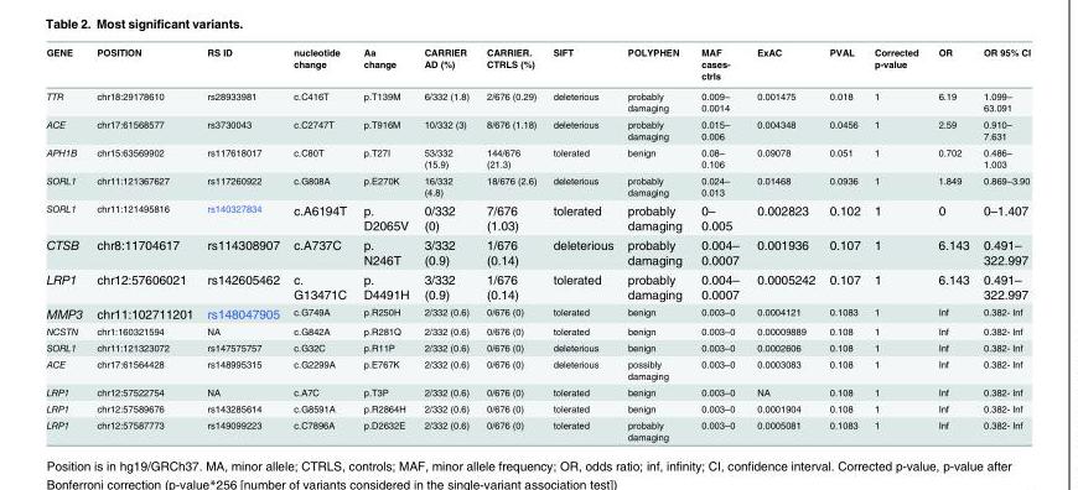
<table><thead><tr><td>GENE</td><td>POSITION</td><td>RS ID</td><td>nucleotide change</td><td>Aa change</td><td>CARRIER AD (%)</td><td>CARRIER. CTRLS (%)</td><td>SIFT</td><td>POLYPHEN</td><td>MAF cases- ctrls</td><td>ExAC</td><td>PVAL</td><td>Corrected p-value</td><td>OR</td><td>OR 95% CI</td></tr></thead><tbody><tr><td>TTR</td><td>chr18:29178610</td><td>rs28933981</td><td>c.C416T</td><td>p.T139M</td><td>6/332 (1.8)</td><td>2/676 (0.29)</td><td>deleterious</td><td>probably damaging</td><td>0.009– 0.0014</td><td>0.001475</td><td>0.018</td><td>1</td><td>6.19</td><td>1.099– 63.091</td></tr><tr><td>ACE</td><td>chr17:61568577</td><td>rs3730043</td><td>c.C2747T</td><td>p.T916M</td><td>10/332 (3)</td><td>8/676 (1.18)</td><td>deleterious</td><td>probably damaging</td><td>0.015– 0.006</td><td>0.004348</td><td>0.0456</td><td>1</td><td>2.59</td><td>0.910– 7.631</td></tr><tr><td>APH1B</td><td>chr15:63569902</td><td>rs117618017</td><td>c.C80T</td><td>p.T27I</td><td>53/332 (15.9)</td><td>144/676 (21.3)</td><td>tolerated</td><td>benign</td><td>0.08– 0.106</td><td>0.09078</td><td>0.051</td><td>1</td><td>0.702</td><td>0.486– 1.003</td></tr><tr><td>SORL1</td><td>chr11:121367627</td><td>rs117260922</td><td>c.G808A</td><td>p.E270K</td><td>16/332 (4.8)</td><td>18/676 (2.6)</td><td>deleterious</td><td>probably damaging</td><td>0.024– 0.013</td><td>0.01468</td><td>0.0936</td><td>1</td><td>1.849</td><td>0.869–3.90</td></tr><tr><td>SORL1</td><td>chr11:121495816</td><td>rs140327834</td><td>c.A6194T</td><td>p. D2065V</td><td>0/332 (0)</td><td>7/676 (1.03)</td><td>tolerated</td><td>probably damaging</td><td>0– 0.005</td><td>0.002823</td><td>0.102</td><td>1</td><td>0</td><td>0–1.407</td></tr><tr><td>CTSB</td><td>chr8:11704617</td><td>rs114308907</td><td>c.A737C</td><td>p. N246T</td><td>3/332 (0.9)</td><td>1/676 (0.14)</td><td>deleterious</td><td>probably damaging</td><td>0.004– 0.0007</td><td>0.001936</td><td>0.107</td><td>1</td><td>6.143</td><td>0.491– 322.997</td></tr><tr><td>LRP1</td><td>chr12:57606021</td><td>rs142605462</td><td>c. G13471C</td><td>p. D4491H</td><td>3/332 (0.9)</td><td>1/676 (0.14)</td><td>tolerated</td><td>probably damaging</td><td>0.004– 0.0007</td><td>0.0005242</td><td>0.107</td><td>1</td><td>6.143</td><td>0.491– 322.997</td></tr><tr><td>MMP3</td><td>chr11:102711201</td><td>rs148047905</td><td>c.G749A</td><td>p.R250H</td><td>2/332 (0.6)</td><td>0/676 (0)</td><td>tolerated</td><td>benign</td><td>0.003–0</td><td>0.0004121</td><td>0.1083</td><td>1</td><td>Inf</td><td>0.382- Inf</td></tr><tr><td>NCSTN</td><td>chr1:160321594</td><td>NA</td><td>c.G842A</td><td>p.R281Q</td><td>2/332 (0.6)</td><td>0/676 (0)</td><td>tolerated</td><td>benign</td><td>0.003–0</td><td>0.00009889</td><td>0.108</td><td>1</td><td>Inf</td><td>0.382- Inf</td></tr><tr><td>SORL1</td><td>chr11:121323072</td><td>rs147575757</td><td>c.G32C</td><td>p.R11P</td><td>2/332 (0.6)</td><td>0/676 (0)</td><td>deleterious</td><td>benign</td><td>0.003–0</td><td>0.0002606</td><td>0.108</td><td>1</td><td>Inf</td><td>0.382- Inf</td></tr><tr><td>ACE</td><td>chr17:61564428</td><td>rs148995315</td><td>c.G2299A</td><td>p.E767K</td><td>2/332 (0.6)</td><td>0/676 (0)</td><td>deleterious</td><td>possibly damaging</td><td>0.003–0</td><td>0.0003083</td><td>0.108</td><td>1</td><td>Inf</td><td>0.382- Inf</td></tr><tr><td>LRP1</td><td>chr12:57522754</td><td>NA</td><td>c.A7C</td><td>p.T3P</td><td>2/332 (0.6)</td><td>0/676 (0)</td><td>tolerated</td><td>benign</td><td>0.003–0</td><td>NA</td><td>0.108</td><td>1</td><td>Inf</td><td>0.382- Inf</td></tr><tr><td>LRP1</td><td>chr12:57589676</td><td>rs143285614</td><td>c.G8591A</td><td>p.R2864H</td><td>2/332 (0.6)</td><td>0/676 (0)</td><td>tolerated</td><td>benign</td><td>0.003–0</td><td>0.0001904</td><td>0.108</td><td>1</td><td>Inf</td><td>0.382- Inf</td></tr><tr><td>LRP1</td><td>chr12:57587773</td><td>rs149099223</td><td>c.C7896A</td><td>p.D2632E</td><td>2/332 (0.6)</td><td>0/676 (0)</td><td>tolerated</td><td>probably damaging</td><td>0.003–0</td><td>0.0005081</td><td>0.1083</td><td>1</td><td>Inf</td><td>0.382- Inf</td></tr></tbody></table>